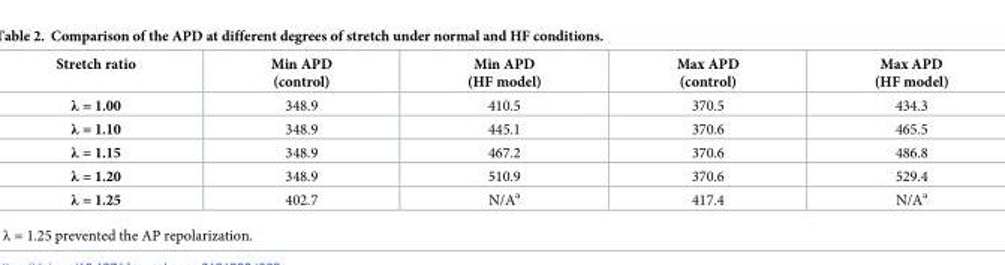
<table><thead><tr><td>Stretch ratio</td><td>Min APD (control)</td><td>Min APD (HF model)</td><td>Max APD (control)</td><td>Max APD (HF model)</td></tr></thead><tbody><tr><td>λ = 1.00</td><td>348.9</td><td>410.5</td><td>370.5</td><td>434.3</td></tr><tr><td>λ = 1.10</td><td>348.9</td><td>445.1</td><td>370.6</td><td>465.5</td></tr><tr><td>λ = 1.15</td><td>348.9</td><td>467.2</td><td>370.6</td><td>486.8</td></tr><tr><td>λ = 1.20</td><td>348.9</td><td>510.9</td><td>370.6</td><td>529.4</td></tr><tr><td>λ = 1.25</td><td>402.7</td><td>N/A<sup>a</sup></td><td>417.4</td><td>N/A<sup>a</sup></td></tr></tbody></table>